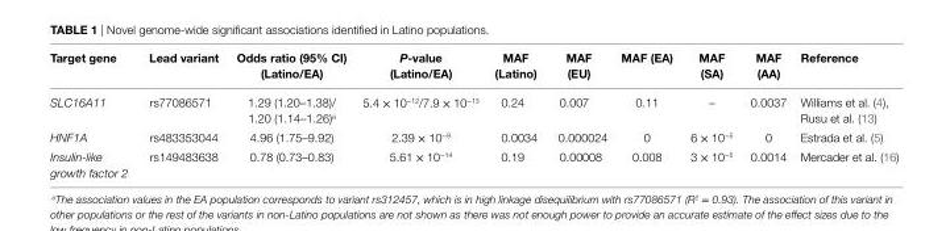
<table><thead><tr><td>Target gene</td><td>Lead variant</td><td>Odds ratio (95% Ci) (Latino/eA)</td><td>P-value (Latino/eA)</td><td>MAF (Latino)</td><td>MAF (eU)</td><td>MAF (eA)</td><td>MAF (SA)</td><td>MAF (AA)</td><td>Reference</td></tr></thead><tbody><tr><td>SLC16A11</td><td>rs77086571</td><td>1.29 (1.20–1.38)/ 1.20 (1.14–1.26)<sup>a</sup></td><td>5.4 × 10<sup>−12</sup>/7.9 × 10<sup>−13</sup></td><td>0.24</td><td>0.007</td><td>0.11</td><td>–</td><td>0.0037</td><td>Williams et al. (4), Rusu et al. (13)</td></tr><tr><td>HNF1A</td><td>rs483353044</td><td>4.96 (1.75–9.92)</td><td>2.39 × 10<sup>−9</sup></td><td>0.0034</td><td>0.000024</td><td>0</td><td>6 × 10<sup>−5</sup></td><td>0</td><td>Estrada et al. (5)</td></tr><tr><td>Insulin-like growth factor 2</td><td>rs149483638</td><td>0.78 (0.73–0.83)</td><td>5.61 × 10<sup>−14</sup></td><td>0.19</td><td>0.00008</td><td>0.008</td><td>3 × 10<sup>−5</sup></td><td>0.0014</td><td>Mercader et al. (16)</td></tr></tbody></table>